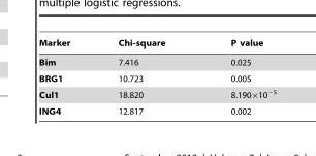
<table><thead><tr><td>Marker</td><td>Chi-square</td><td>P value</td></tr></thead><tbody><tr><td>Bim</td><td>7.416</td><td>0.025</td></tr><tr><td>BRG1</td><td>10.723</td><td>0.005</td></tr><tr><td>Cul1</td><td>18.820</td><td>8.190×10<sup>−5</sup></td></tr><tr><td>ING4</td><td>12.817</td><td>0.002</td></tr></tbody></table>